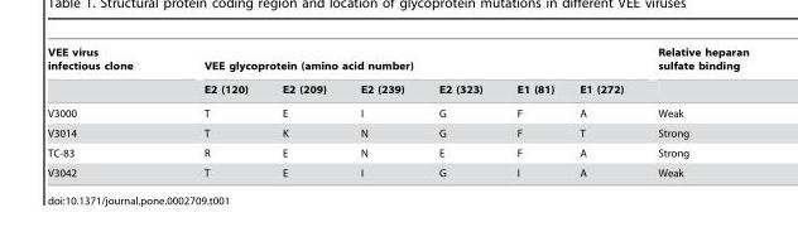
<table><thead><tr><td rowspan="2">VEE virus infectious clone</td><td colspan="6">VEE glycoprotein (amino acid number)</td><td rowspan="2">Relative heparan sulfate binding</td></tr><tr><td>E2 (120)</td><td>E2 (209)</td><td>E2 (239)</td><td>E2 (323)</td><td>E1 (81)</td><td>E1 (272)</td></tr></thead><tbody><tr><td>V3000</td><td>T</td><td>E</td><td>I</td><td>G</td><td>F</td><td>A</td><td>Weak</td></tr><tr><td>V3014</td><td>T</td><td>K</td><td>N</td><td>G</td><td>F</td><td>T</td><td>Strong</td></tr><tr><td>TC-83</td><td>R</td><td>E</td><td>N</td><td>E</td><td>F</td><td>A</td><td>Strong</td></tr><tr><td>V3042</td><td>T</td><td>E</td><td>I</td><td>G</td><td>I</td><td>A</td><td>Weak</td></tr></tbody></table>